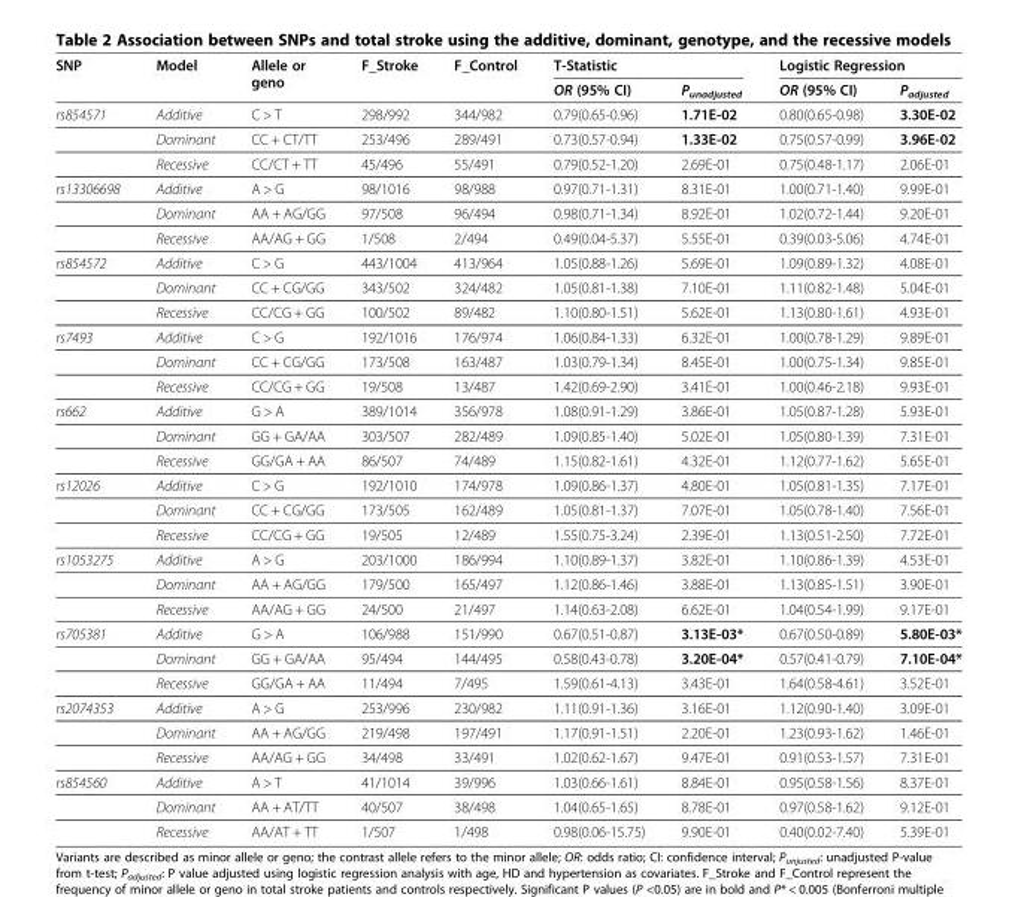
<table><thead><tr><td rowspan="2">SNP</td><td rowspan="2">Model</td><td rowspan="2">Allele or geno</td><td rowspan="2">F_Stroke</td><td rowspan="2">F_Control</td><td colspan="2">T-Statistic</td><td colspan="2">Logistic Regression</td></tr><tr><td>OR (95% CI)</td><td>P<sub>unadjusted</sub></td><td>OR (95% CI)</td><td>P<sub>adjusted</sub></td></tr></thead><tbody><tr><td rowspan="3">rs854571</td><td>Additive</td><td>C &gt; T</td><td>298/992</td><td>344/982</td><td>0.79(0.65-0.96)</td><td>1.71E-02</td><td>0.80(0.65-0.98)</td><td>3.30E-02</td></tr><tr><td>Dominant</td><td>CC + CT/TT</td><td>253/496</td><td>289/491</td><td>0.73(0.57-0.94)</td><td>1.33E-02</td><td>0.75(0.57-0.99)</td><td>3.96E-02</td></tr><tr><td>Recessive</td><td>CC/CT + TT</td><td>45/496</td><td>55/491</td><td>0.79(0.52-1.20)</td><td>2.69E-01</td><td>0.75(0.48-1.17)</td><td>2.06E-01</td></tr><tr><td rowspan="3">rs13306698</td><td>Additive</td><td>A &gt; G</td><td>98/1016</td><td>98/988</td><td>0.97(0.71-1.31)</td><td>8.31E-01</td><td>1.00(0.71-1.40)</td><td>9.99E-01</td></tr><tr><td>Dominant</td><td>AA + AG/GG</td><td>97/508</td><td>96/494</td><td>0.98(0.71-1.34)</td><td>8.92E-01</td><td>1.02(0.72-1.44)</td><td>9.20E-01</td></tr><tr><td>Recessive</td><td>AA/AG + GG</td><td>1/508</td><td>2/494</td><td>0.49(0.04-5.37)</td><td>5.55E-01</td><td>0.39(0.03-5.06)</td><td>4.74E-01</td></tr><tr><td rowspan="3">rs854572</td><td>Additive</td><td>C &gt; G</td><td>443/1004</td><td>413/964</td><td>1.05(0.88-1.26)</td><td>5.69E-01</td><td>1.09(0.89-1.32)</td><td>4.08E-01</td></tr><tr><td>Dominant</td><td>CC + CG/GG</td><td>343/502</td><td>324/482</td><td>1.05(0.81-1.38)</td><td>7.10E-01</td><td>1.11(0.82-1.48)</td><td>5.04E-01</td></tr><tr><td>Recessive</td><td>CC/CG + GG</td><td>100/502</td><td>89/482</td><td>1.10(0.80-1.51)</td><td>5.62E-01</td><td>1.13(0.80-1.61)</td><td>4.93E-01</td></tr><tr><td rowspan="3">rs7493</td><td>Additive</td><td>C &gt; G</td><td>192/1016</td><td>176/974</td><td>1.06(0.84-1.33)</td><td>6.32E-01</td><td>1.00(0.78-1.29)</td><td>9.89E-01</td></tr><tr><td>Dominant</td><td>CC + CG/GG</td><td>173/508</td><td>163/487</td><td>1.03(0.79-1.34)</td><td>8.45E-01</td><td>1.00(0.75-1.34)</td><td>9.85E-01</td></tr><tr><td>Recessive</td><td>CC/CG + GG</td><td>19/508</td><td>13/487</td><td>1.42(0.69-2.90)</td><td>3.41E-01</td><td>1.00(0.46-2.18)</td><td>9.93E-01</td></tr><tr><td rowspan="3">rs662</td><td>Additive</td><td>G &gt; A</td><td>389/1014</td><td>356/978</td><td>1.08(0.91-1.29)</td><td>3.86E-01</td><td>1.05(0.87-1.28)</td><td>5.93E-01</td></tr><tr><td>Dominant</td><td>GG + GA/AA</td><td>303/507</td><td>282/489</td><td>1.09(0.85-1.40)</td><td>5.02E-01</td><td>1.05(0.80-1.39)</td><td>7.31E-01</td></tr><tr><td>Recessive</td><td>GG/GA + AA</td><td>86/507</td><td>74/489</td><td>1.15(0.82-1.61)</td><td>4.32E-01</td><td>1.12(0.77-1.62)</td><td>5.65E-01</td></tr><tr><td rowspan="3">rs12026</td><td>Additive</td><td>C &gt; G</td><td>192/1010</td><td>174/978</td><td>1.09(0.86-1.37)</td><td>4.80E-01</td><td>1.05(0.81-1.35)</td><td>7.17E-01</td></tr><tr><td>Dominant</td><td>CC + CG/GG</td><td>173/505</td><td>162/489</td><td>1.05(0.81-1.37)</td><td>7.07E-01</td><td>1.05(0.78-1.40)</td><td>7.56E-01</td></tr><tr><td>Recessive</td><td>CC/CG + GG</td><td>19/505</td><td>12/489</td><td>1.55(0.75-3.24)</td><td>2.39E-01</td><td>1.13(0.51-2.50)</td><td>7.72E-01</td></tr><tr><td rowspan="3">rs1053275</td><td>Additive</td><td>A &gt; G</td><td>203/1000</td><td>186/994</td><td>1.10(0.89-1.37)</td><td>3.82E-01</td><td>1.10(0.86-1.39)</td><td>4.53E-01</td></tr><tr><td>Dominant</td><td>AA + AG/GG</td><td>179/500</td><td>165/497</td><td>1.12(0.86-1.46)</td><td>3.88E-01</td><td>1.13(0.85-1.51)</td><td>3.90E-01</td></tr><tr><td>Recessive</td><td>AA/AG + GG</td><td>24/500</td><td>21/497</td><td>1.14(0.63-2.08)</td><td>6.62E-01</td><td>1.04(0.54-1.99)</td><td>9.17E-01</td></tr><tr><td rowspan="3">rs705381</td><td>Additive</td><td>G &gt; A</td><td>106/988</td><td>151/990</td><td>0.67(0.51-0.87)</td><td>3.13E-03*</td><td>0.67(0.50-0.89)</td><td>5.80E-03*</td></tr><tr><td>Dominant</td><td>GG + GA/AA</td><td>95/494</td><td>144/495</td><td>0.58(0.43-0.78)</td><td>3.20E-04*</td><td>0.57(0.41-0.79)</td><td>7.10E-04*</td></tr><tr><td>Recessive</td><td>GG/GA + AA</td><td>11/494</td><td>7/495</td><td>1.59(0.61-4.13)</td><td>3.43E-01</td><td>1.64(0.58-4.61)</td><td>3.52E-01</td></tr><tr><td rowspan="3">rs2074353</td><td>Additive</td><td>A &gt; G</td><td>253/996</td><td>230/982</td><td>1.11(0.91-1.36)</td><td>3.16E-01</td><td>1.12(0.90-1.40)</td><td>3.09E-01</td></tr><tr><td>Dominant</td><td>AA + AG/GG</td><td>219/498</td><td>197/491</td><td>1.17(0.91-1.51)</td><td>2.20E-01</td><td>1.23(0.93-1.62)</td><td>1.46E-01</td></tr><tr><td>Recessive</td><td>AA/AG + GG</td><td>34/498</td><td>33/491</td><td>1.02(0.62-1.67)</td><td>9.47E-01</td><td>0.91(0.53-1.57)</td><td>7.31E-01</td></tr><tr><td rowspan="3">rs854560</td><td>Additive</td><td>A &gt; T</td><td>41/1014</td><td>39/996</td><td>1.03(0.66-1.61)</td><td>8.84E-01</td><td>0.95(0.58-1.56)</td><td>8.37E-01</td></tr><tr><td>Dominant</td><td>AA + AT/TT</td><td>40/507</td><td>38/498</td><td>1.04(0.65-1.65)</td><td>8.78E-01</td><td>0.97(0.58-1.62)</td><td>9.12E-01</td></tr><tr><td>Recessive</td><td>AA/AT + TT</td><td>1/507</td><td>1/498</td><td>0.98(0.06-15.75)</td><td>9.90E-01</td><td>0.40(0.02-7.40)</td><td>5.39E-01</td></tr></tbody></table>